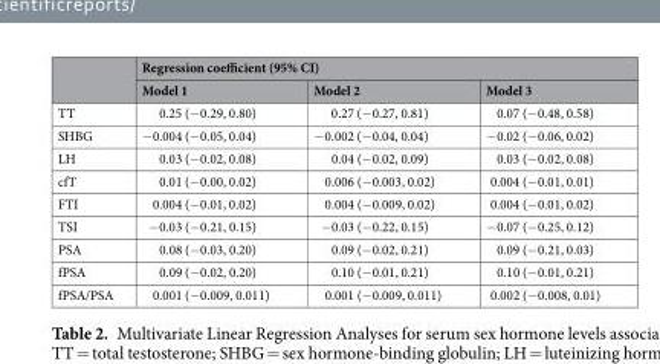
<table><thead><tr><td rowspan="2"></td><td colspan="3">Regression coefficient (95% CI)</td></tr><tr><td>Model 1</td><td>Model 2</td><td>Model 3</td></tr></thead><tbody><tr><td>TT</td><td>0.25 (−0.29, 0.80)</td><td>0.27 (−0.27, 0.81)</td><td>0.07 (−0.48, 0.58)</td></tr><tr><td>SHBG</td><td>−0.004 (−0.05, 0.04)</td><td>−0.002 (−0.04, 0.04)</td><td>−0.02 (−0.06, 0.02)</td></tr><tr><td>LH</td><td>0.03 (−0.02, 0.08)</td><td>0.04 (−0.02, 0.09)</td><td>0.03 (−0.02, 0.08)</td></tr><tr><td>cfT</td><td>0.01 (−0.00, 0.02)</td><td>0.006 (−0.003, 0.02)</td><td>0.004 (−0.01, 0.01)</td></tr><tr><td>FTI</td><td>0.004 (−0.01, 0.02)</td><td>0.004 (−0.009, 0.02)</td><td>0.004 (−0.01, 0.02)</td></tr><tr><td>TSI</td><td>−0.03 (−0.21, 0.15)</td><td>−0.03 (−0.22, 0.15)</td><td>−0.07 (−0.25, 0.12)</td></tr><tr><td>PSA</td><td>0.08 (−0.03, 0.20)</td><td>0.09 (−0.02, 0.21)</td><td>0.09 (−0.21, 0.03)</td></tr><tr><td>fPSA</td><td>0.09 (−0.02, 0.20)</td><td>0.10 (−0.01, 0.21)</td><td>0.10 (−0.01, 0.21)</td></tr><tr><td>fPSA/PSA</td><td>0.001 (−0.009, 0.011)</td><td>0.001 (−0.009, 0.011)</td><td>0.002 (−0.008, 0.01)</td></tr></tbody></table>